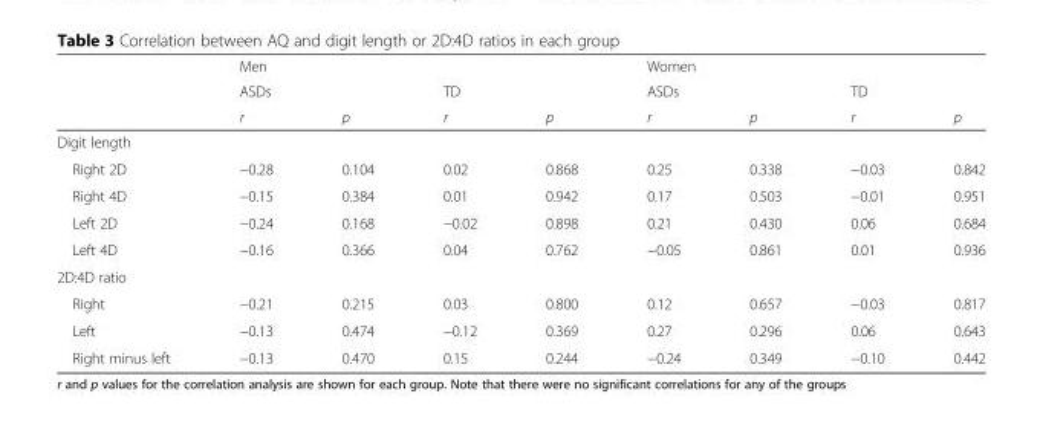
<table><thead><tr><td rowspan="3"></td><td colspan="4">Men</td><td colspan="4">Women</td></tr><tr><td colspan="2">ASDs</td><td colspan="2">TD</td><td colspan="2">ASDs</td><td colspan="2">TD</td></tr><tr><td>r</td><td>p</td><td>r</td><td>p</td><td>r</td><td>p</td><td>r</td><td>p</td></tr></thead><tbody><tr><td colspan="9">Digit length</td></tr><tr><td>Right 2D</td><td>−0.28</td><td>0.104</td><td>0.02</td><td>0.868</td><td>0.25</td><td>0.338</td><td>−0.03</td><td>0.842</td></tr><tr><td>Right 4D</td><td>−0.15</td><td>0.384</td><td>0.01</td><td>0.942</td><td>0.17</td><td>0.503</td><td>−0.01</td><td>0.951</td></tr><tr><td>Left 2D</td><td>−0.24</td><td>0.168</td><td>−0.02</td><td>0.898</td><td>0.21</td><td>0.430</td><td>0.06</td><td>0.684</td></tr><tr><td>Left 4D</td><td>−0.16</td><td>0.366</td><td>0.04</td><td>0.762</td><td>−0.05</td><td>0.861</td><td>0.01</td><td>0.936</td></tr><tr><td colspan="9">2D:4D ratio</td></tr><tr><td>Right</td><td>−0.21</td><td>0.215</td><td>0.03</td><td>0.800</td><td>0.12</td><td>0.657</td><td>−0.03</td><td>0.817</td></tr><tr><td>Left</td><td>−0.13</td><td>0.474</td><td>−0.12</td><td>0.369</td><td>0.27</td><td>0.296</td><td>0.06</td><td>0.643</td></tr><tr><td>Right minus left</td><td>−0.13</td><td>0.470</td><td>0.15</td><td>0.244</td><td>−0.24</td><td>0.349</td><td>−0.10</td><td>0.442</td></tr></tbody></table>